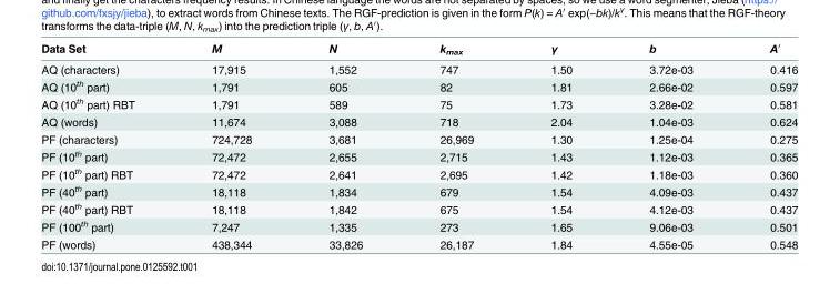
<table><thead><tr><td>Data Set</td><td>M</td><td>N</td><td>k<sub>max</sub></td><td>γ</td><td>b</td><td>A′</td></tr></thead><tbody><tr><td>AQ (characters)</td><td>17,915</td><td>1,552</td><td>747</td><td>1.50</td><td>3.72e-03</td><td>0.416</td></tr><tr><td>AQ (10<sup>th</sup> part)</td><td>1,791</td><td>605</td><td>82</td><td>1.81</td><td>2.66e-02</td><td>0.597</td></tr><tr><td>AQ (10<sup>th</sup> part) RBT</td><td>1,791</td><td>589</td><td>75</td><td>1.73</td><td>3.28e-02</td><td>0.581</td></tr><tr><td>AQ (words)</td><td>11,674</td><td>3,088</td><td>718</td><td>2.04</td><td>1.04e-03</td><td>0.624</td></tr><tr><td>PF (characters)</td><td>724,728</td><td>3,681</td><td>26,969</td><td>1.30</td><td>1.25e-04</td><td>0.275</td></tr><tr><td>PF (10<sup>th</sup> part)</td><td>72,472</td><td>2,655</td><td>2,715</td><td>1.43</td><td>1.12e-03</td><td>0.365</td></tr><tr><td>PF (10<sup>th</sup> part) RBT</td><td>72,472</td><td>2,641</td><td>2,695</td><td>1.42</td><td>1.18e-03</td><td>0.360</td></tr><tr><td>PF (40<sup>th</sup> part)</td><td>18,118</td><td>1,834</td><td>679</td><td>1.54</td><td>4.09e-03</td><td>0.437</td></tr><tr><td>PF (40<sup>th</sup> part) RBT</td><td>18,118</td><td>1,842</td><td>675</td><td>1.54</td><td>4.12e-03</td><td>0.437</td></tr><tr><td>PF (100<sup>th</sup> part)</td><td>7,247</td><td>1,335</td><td>273</td><td>1.65</td><td>9.06e-03</td><td>0.501</td></tr><tr><td>PF (words)</td><td>438,344</td><td>33,826</td><td>26,187</td><td>1.84</td><td>4.55e-05</td><td>0.548</td></tr></tbody></table>